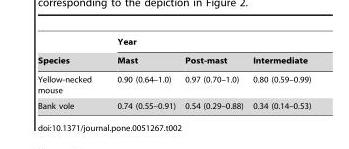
<table><thead><tr><td rowspan="2">Species</td><td colspan="3">Year</td></tr><tr><td>Mast</td><td>Post-mast</td><td>Intermediate</td></tr></thead><tbody><tr><td>Yellow-necked mouse</td><td>0.90 (0.64–1.0)</td><td>0.97 (0.70–1.0)</td><td>0.80 (0.59–0.99)</td></tr><tr><td>Bank vole</td><td>0.74 (0.55–0.91)</td><td>0.54 (0.29–0.88)</td><td>0.34 (0.14–0.53)</td></tr></tbody></table>